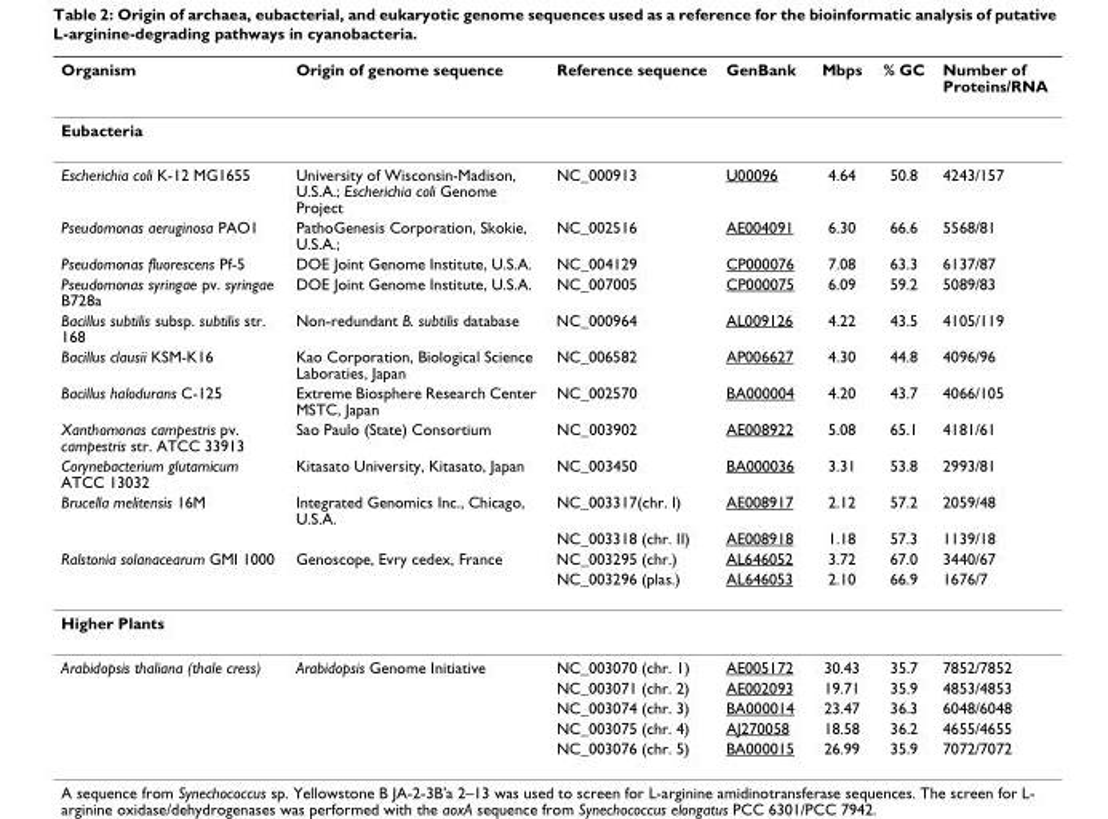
<table><thead><tr><td>Organism</td><td>Origin of genome sequence</td><td>Reference sequence</td><td>GenBank</td><td>Mbps</td><td>% GC</td><td>Number of Proteins/RNA</td></tr></thead><tbody><tr><td colspan="7">Eubacteria</td></tr><tr><td>Escherichia coli K-12 MG1655</td><td>University of Wisconsin-Madison, U.S.A.; Escherichia coli Genome Project</td><td>NC_000913</td><td>U00096</td><td>4.64</td><td>50.8</td><td>4243/157</td></tr><tr><td>Pseudomonas aeruginosa PAO1</td><td>PathoGenesis Corporation, Skokie, U.S.A.;</td><td>NC_002516</td><td>AE004091</td><td>6.30</td><td>66.6</td><td>5568/81</td></tr><tr><td>Pseudomonas fluorescens Pf-5</td><td>DOE Joint Genome Institute, U.S.A.</td><td>NC_004129</td><td>CP000076</td><td>7.08</td><td>63.3</td><td>6137/87</td></tr><tr><td>Pseudomonas syringae pv. syringae B728a</td><td>DOE Joint Genome Institute, U.S.A.</td><td>NC_007005</td><td>CP000075</td><td>6.09</td><td>59.2</td><td>5089/83</td></tr><tr><td>Bacillus subtilis subsp. subtilis str. 168</td><td>Non-redundant B. subtilis database</td><td>NC_000964</td><td>AL009126</td><td>4.22</td><td>43.5</td><td>4105/119</td></tr><tr><td>Bacillus clausii KSM-K16</td><td>Kao Corporation, Biological Science Laboraties, Japan</td><td>NC_006582</td><td>AP006627</td><td>4.30</td><td>44.8</td><td>4096/96</td></tr><tr><td>Bacillus halodurans C-125</td><td>Extreme Biosphere Research Center MSTC, Japan</td><td>NC_002570</td><td>BA000004</td><td>4.20</td><td>43.7</td><td>4066/105</td></tr><tr><td>Xanthomonas campestris pv. campestris str. ATCC 33913</td><td>Sao Paulo (State) Consortium</td><td>NC_003902</td><td>AE008922</td><td>5.08</td><td>65.1</td><td>4181/61</td></tr><tr><td>Corynebacterium glutamicum ATCC 13032</td><td>Kitasato University, Kitasato, Japan</td><td>NC_003450</td><td>BA000036</td><td>3.31</td><td>53.8</td><td>2993/81</td></tr><tr><td rowspan="2">Brucella melitensis 16M</td><td>Integrated Genomics Inc., Chicago, U.S.A.</td><td>NC_003317(chr. I)</td><td>AE008917</td><td>2.12</td><td>57.2</td><td>2059/48</td></tr><tr><td></td><td>NC_003318 (chr. II)</td><td>AE008918</td><td>1.18</td><td>57.3</td><td>1139/18</td></tr><tr><td rowspan="2">Ralstonia solanacearum GMI 1000</td><td>Genoscope, Evry cedex, France</td><td>NC_003295 (chr.)</td><td>AL646052</td><td>3.72</td><td>67.0</td><td>3440/67</td></tr><tr><td></td><td>NC_003296 (plas.)</td><td>AL646053</td><td>2.10</td><td>66.9</td><td>1676/7</td></tr><tr><td colspan="7">Higher Plants</td></tr><tr><td rowspan="5">Arabidopsis thaliana (thale cress)</td><td>Arabidopsis Genome Initiative</td><td>NC_003070 (chr. 1)</td><td>AE005172</td><td>30.43</td><td>35.7</td><td>7852/7852</td></tr><tr><td></td><td>NC_003071 (chr. 2)</td><td>AE002093</td><td>19.71</td><td>35.9</td><td>4853/4853</td></tr><tr><td></td><td>NC_003074 (chr. 3)</td><td>BA000014</td><td>23.47</td><td>36.3</td><td>6048/6048</td></tr><tr><td></td><td>NC_003075 (chr. 4)</td><td>AJ270058</td><td>18.58</td><td>36.2</td><td>4655/4655</td></tr><tr><td></td><td>NC_003076 (chr. 5)</td><td>BA000015</td><td>26.99</td><td>35.9</td><td>7072/7072</td></tr></tbody></table>